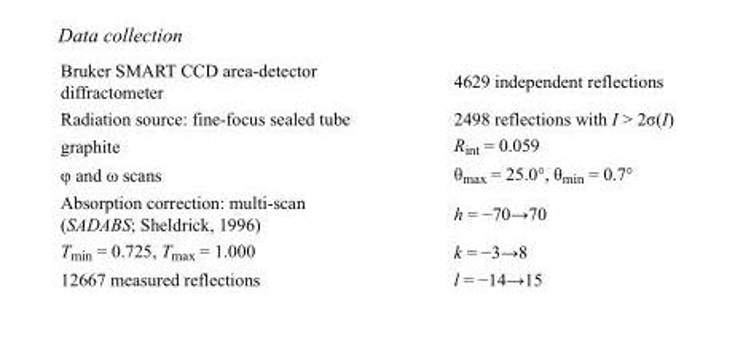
<table><tbody><tr><td>Bruker SMART CCD area-detector diffractometer</td><td>4629 independent reflections</td></tr><tr><td>Radiation source: fine-focus sealed tube</td><td>2498 reflections with I &gt; 2σ(I)</td></tr><tr><td>graphite</td><td>R<sub>int</sub> = 0.059</td></tr><tr><td>φ and ω scans</td><td>θ<sub>max</sub> = 25.0°, θ<sub>min</sub> = 0.7°</td></tr><tr><td>Absorption correction: multi-scan (SADABS; Sheldrick, 1996)</td><td>h = −70→70</td></tr><tr><td>T<sub>min</sub> = 0.725, T<sub>max</sub> = 1.000</td><td>k = −3→8</td></tr><tr><td>12667 measured reflections</td><td>l = −14→15</td></tr></tbody></table>